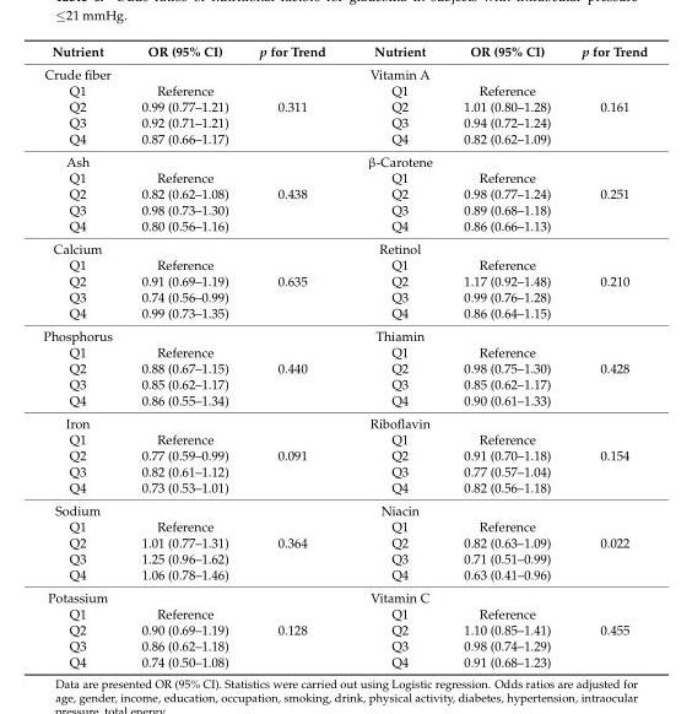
<table><thead><tr><td>Nutrient</td><td>OR (95% CI)</td><td>p for Trend</td><td>Nutrient</td><td>OR (95% CI)</td><td>p for Trend</td></tr></thead><tbody><tr><td>Crude fiber</td><td></td><td></td><td>Vitamin A</td><td></td><td></td></tr><tr><td>Q1</td><td>Reference</td><td></td><td>Q1</td><td>Reference</td><td></td></tr><tr><td>Q2</td><td>0.99 (0.77–1.21)</td><td>0.311</td><td>Q2</td><td>1.01 (0.80–1.28)</td><td>0.161</td></tr><tr><td>Q3</td><td>0.92 (0.71–1.21)</td><td></td><td>Q3</td><td>0.94 (0.72–1.24)</td><td></td></tr><tr><td>Q4</td><td>0.87 (0.66–1.17)</td><td></td><td>Q4</td><td>0.82 (0.62–1.09)</td><td></td></tr><tr><td>Ash</td><td></td><td></td><td>β-Carotene</td><td></td><td></td></tr><tr><td>Q1</td><td>Reference</td><td></td><td>Q1</td><td>Reference</td><td></td></tr><tr><td>Q2</td><td>0.82 (0.62–1.08)</td><td>0.438</td><td>Q2</td><td>0.98 (0.77–1.24)</td><td>0.251</td></tr><tr><td>Q3</td><td>0.98 (0.73–1.30)</td><td></td><td>Q3</td><td>0.89 (0.68–1.18)</td><td></td></tr><tr><td>Q4</td><td>0.80 (0.56–1.16)</td><td></td><td>Q4</td><td>0.86 (0.66–1.13)</td><td></td></tr><tr><td>Calcium</td><td></td><td></td><td>Retinol</td><td></td><td></td></tr><tr><td>Q1</td><td>Reference</td><td></td><td>Q1</td><td>Reference</td><td></td></tr><tr><td>Q2</td><td>0.91 (0.69–1.19)</td><td>0.635</td><td>Q2</td><td>1.17 (0.92–1.48)</td><td>0.210</td></tr><tr><td>Q3</td><td>0.74 (0.56–0.99)</td><td></td><td>Q3</td><td>0.99 (0.76–1.28)</td><td></td></tr><tr><td>Q4</td><td>0.99 (0.73–1.35)</td><td></td><td>Q4</td><td>0.86 (0.64–1.15)</td><td></td></tr><tr><td>Phosphorus</td><td></td><td></td><td>Thiamin</td><td></td><td></td></tr><tr><td>Q1</td><td>Reference</td><td></td><td>Q1</td><td>Reference</td><td></td></tr><tr><td>Q2</td><td>0.88 (0.67–1.15)</td><td>0.440</td><td>Q2</td><td>0.98 (0.75–1.30)</td><td>0.428</td></tr><tr><td>Q3</td><td>0.85 (0.62–1.17)</td><td></td><td>Q3</td><td>0.85 (0.62–1.17)</td><td></td></tr><tr><td>Q4</td><td>0.86 (0.55–1.34)</td><td></td><td>Q4</td><td>0.90 (0.61–1.33)</td><td></td></tr><tr><td>Iron</td><td></td><td></td><td>Riboflavin</td><td></td><td></td></tr><tr><td>Q1</td><td>Reference</td><td></td><td>Q1</td><td>Reference</td><td></td></tr><tr><td>Q2</td><td>0.77 (0.59–0.99)</td><td>0.091</td><td>Q2</td><td>0.91 (0.70–1.18)</td><td>0.154</td></tr><tr><td>Q3</td><td>0.82 (0.61–1.12)</td><td></td><td>Q3</td><td>0.77 (0.57–1.04)</td><td></td></tr><tr><td>Q4</td><td>0.73 (0.53–1.01)</td><td></td><td>Q4</td><td>0.82 (0.56–1.18)</td><td></td></tr><tr><td>Sodium</td><td></td><td></td><td>Niacin</td><td></td><td></td></tr><tr><td>Q1</td><td>Reference</td><td></td><td>Q1</td><td>Reference</td><td></td></tr><tr><td>Q2</td><td>1.01 (0.77–1.31)</td><td>0.364</td><td>Q2</td><td>0.82 (0.63–1.09)</td><td>0.022</td></tr><tr><td>Q3</td><td>1.25 (0.96–1.62)</td><td></td><td>Q3</td><td>0.71 (0.51–0.99)</td><td></td></tr><tr><td>Q4</td><td>1.06 (0.78–1.46)</td><td></td><td>Q4</td><td>0.63 (0.41–0.96)</td><td></td></tr><tr><td>Potassium</td><td></td><td></td><td>Vitamin C</td><td></td><td></td></tr><tr><td>Q1</td><td>Reference</td><td></td><td>Q1</td><td>Reference</td><td></td></tr><tr><td>Q2</td><td>0.90 (0.69–1.19)</td><td>0.128</td><td>Q2</td><td>1.10 (0.85–1.41)</td><td>0.455</td></tr><tr><td>Q3</td><td>0.86 (0.62–1.18)</td><td></td><td>Q3</td><td>0.98 (0.74–1.29)</td><td></td></tr><tr><td>Q4</td><td>0.74 (0.50–1.08)</td><td></td><td>Q4</td><td>0.91 (0.68–1.23)</td><td></td></tr></tbody></table>